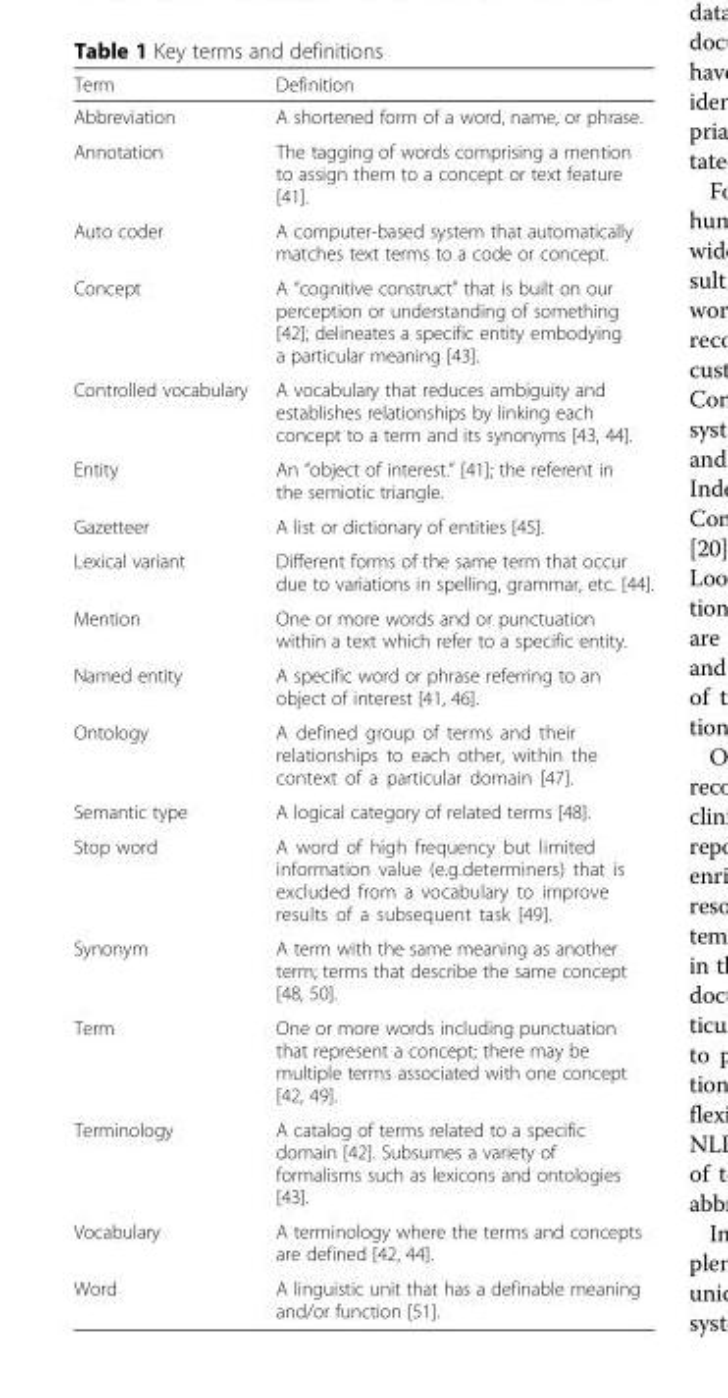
<table><thead><tr><td>Term</td><td>Definition</td></tr></thead><tbody><tr><td>Abbreviation</td><td>A shortened form of a word, name, or phrase.</td></tr><tr><td>Annotation</td><td>The tagging of words comprising a mention to assign them to a concept or text feature [41].</td></tr><tr><td>Auto coder</td><td>A computer-based system that automatically matches text terms to a code or concept.</td></tr><tr><td>Concept</td><td>A “cognitive construct” that is built on our perception or understanding of something [42]; delineates a specific entity embodying a particular meaning [43].</td></tr><tr><td>Controlled vocabulary</td><td>A vocabulary that reduces ambiguity and establishes relationships by linking each concept to a term and its synonyms [43, 44].</td></tr><tr><td>Entity</td><td>An “object of interest.” [41]; the referent in the semiotic triangle.</td></tr><tr><td>Gazetteer</td><td>A list or dictionary of entities [45].</td></tr><tr><td>Lexical variant</td><td>Different forms of the same term that occur due to variations in spelling, grammar, etc. [44].</td></tr><tr><td>Mention</td><td>One or more words and or punctuation within a text which refer to a specific entity.</td></tr><tr><td>Named entity</td><td>A specific word or phrase referring to an object of interest [41, 46].</td></tr><tr><td>Ontology</td><td>A defined group of terms and their relationships to each other, within the context of a particular domain [47].</td></tr><tr><td>Semantic type</td><td>A logical category of related terms [48].</td></tr><tr><td>Stop word</td><td>A word of high frequency but limited information value (e.g.determiners) that is excluded from a vocabulary to improve results of a subsequent task [49].</td></tr><tr><td>Synonym</td><td>A term with the same meaning as another term; terms that describe the same concept [48, 50].</td></tr><tr><td>Term</td><td>One or more words including punctuation that represent a concept; there may be multiple terms associated with one concept [42, 49].</td></tr><tr><td>Terminology</td><td>A catalog of terms related to a specific domain [42]. Subsumes a variety of formalisms such as lexicons and ontologies [43].</td></tr><tr><td>Vocabulary</td><td>A terminology where the terms and concepts are defined [42, 44].</td></tr><tr><td>Word</td><td>A linguistic unit that has a definable meaning and/or function [51].</td></tr></tbody></table>